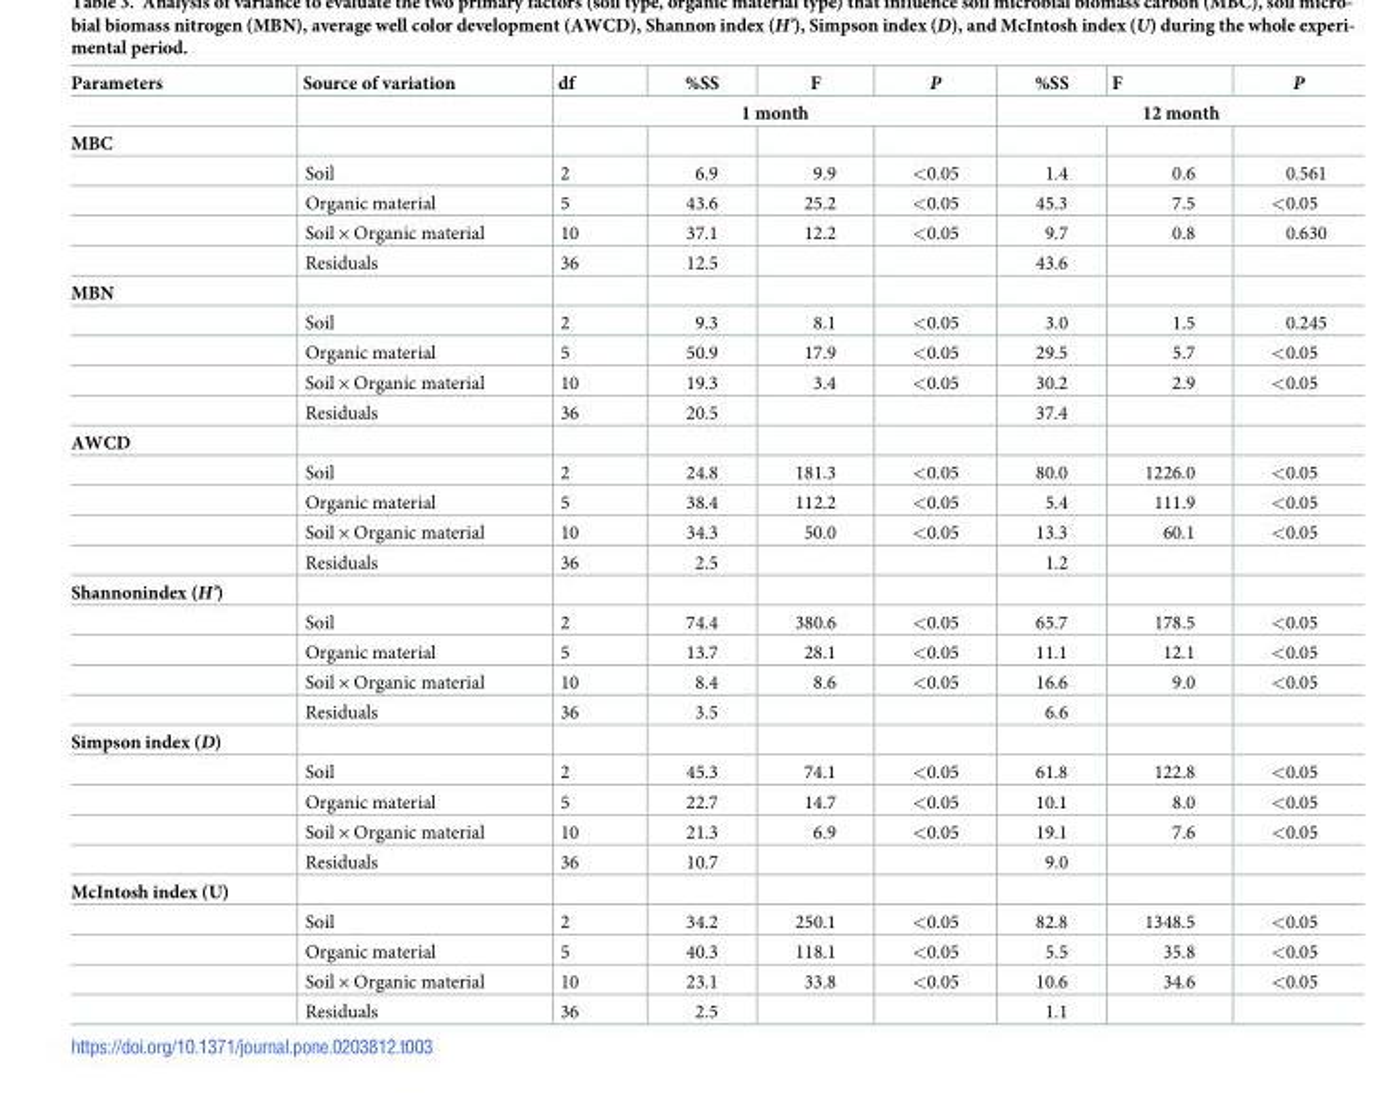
<table><thead><tr><td rowspan="2">Parameters</td><td rowspan="2">Source of variation</td><td>df</td><td>%SS</td><td>F</td><td>P</td><td>%SS</td><td>F</td><td>P</td></tr><tr><td colspan="4">1 month</td><td colspan="3">12 month</td></tr></thead><tbody><tr><td colspan="9">MBC</td></tr><tr><td></td><td>Soil</td><td>2</td><td>6.9</td><td>9.9</td><td>&lt;0.05</td><td>1.4</td><td>0.6</td><td>0.561</td></tr><tr><td></td><td>Organic material</td><td>5</td><td>43.6</td><td>25.2</td><td>&lt;0.05</td><td>45.3</td><td>7.5</td><td>&lt;0.05</td></tr><tr><td></td><td>Soil × Organic material</td><td>10</td><td>37.1</td><td>12.2</td><td>&lt;0.05</td><td>9.7</td><td>0.8</td><td>0.630</td></tr><tr><td></td><td>Residuals</td><td>36</td><td>12.5</td><td></td><td></td><td>43.6</td><td></td><td></td></tr><tr><td colspan="9">MBN</td></tr><tr><td></td><td>Soil</td><td>2</td><td>9.3</td><td>8.1</td><td>&lt;0.05</td><td>3.0</td><td>1.5</td><td>0.245</td></tr><tr><td></td><td>Organic material</td><td>5</td><td>50.9</td><td>17.9</td><td>&lt;0.05</td><td>29.5</td><td>5.7</td><td>&lt;0.05</td></tr><tr><td></td><td>Soil × Organic material</td><td>10</td><td>19.3</td><td>3.4</td><td>&lt;0.05</td><td>30.2</td><td>2.9</td><td>&lt;0.05</td></tr><tr><td></td><td>Residuals</td><td>36</td><td>20.5</td><td></td><td></td><td>37.4</td><td></td><td></td></tr><tr><td colspan="9">AWCD</td></tr><tr><td></td><td>Soil</td><td>2</td><td>24.8</td><td>181.3</td><td>&lt;0.05</td><td>80.0</td><td>1226.0</td><td>&lt;0.05</td></tr><tr><td></td><td>Organic material</td><td>5</td><td>38.4</td><td>112.2</td><td>&lt;0.05</td><td>5.4</td><td>111.9</td><td>&lt;0.05</td></tr><tr><td></td><td>Soil × Organic material</td><td>10</td><td>34.3</td><td>50.0</td><td>&lt;0.05</td><td>13.3</td><td>60.1</td><td>&lt;0.05</td></tr><tr><td></td><td>Residuals</td><td>36</td><td>2.5</td><td></td><td></td><td>1.2</td><td></td><td></td></tr><tr><td colspan="9">Shannonindex (H’)</td></tr><tr><td></td><td>Soil</td><td>2</td><td>74.4</td><td>380.6</td><td>&lt;0.05</td><td>65.7</td><td>178.5</td><td>&lt;0.05</td></tr><tr><td></td><td>Organic material</td><td>5</td><td>13.7</td><td>28.1</td><td>&lt;0.05</td><td>11.1</td><td>12.1</td><td>&lt;0.05</td></tr><tr><td></td><td>Soil × Organic material</td><td>10</td><td>8.4</td><td>8.6</td><td>&lt;0.05</td><td>16.6</td><td>9.0</td><td>&lt;0.05</td></tr><tr><td></td><td>Residuals</td><td>36</td><td>3.5</td><td></td><td></td><td>6.6</td><td></td><td></td></tr><tr><td colspan="9">Simpson index (D)</td></tr><tr><td></td><td>Soil</td><td>2</td><td>45.3</td><td>74.1</td><td>&lt;0.05</td><td>61.8</td><td>122.8</td><td>&lt;0.05</td></tr><tr><td></td><td>Organic material</td><td>5</td><td>22.7</td><td>14.7</td><td>&lt;0.05</td><td>10.1</td><td>8.0</td><td>&lt;0.05</td></tr><tr><td></td><td>Soil × Organic material</td><td>10</td><td>21.3</td><td>6.9</td><td>&lt;0.05</td><td>19.1</td><td>7.6</td><td>&lt;0.05</td></tr><tr><td></td><td>Residuals</td><td>36</td><td>10.7</td><td></td><td></td><td>9.0</td><td></td><td></td></tr><tr><td colspan="9">McIntosh index (U)</td></tr><tr><td></td><td>Soil</td><td>2</td><td>34.2</td><td>250.1</td><td>&lt;0.05</td><td>82.8</td><td>1348.5</td><td>&lt;0.05</td></tr><tr><td></td><td>Organic material</td><td>5</td><td>40.3</td><td>118.1</td><td>&lt;0.05</td><td>5.5</td><td>35.8</td><td>&lt;0.05</td></tr><tr><td></td><td>Soil × Organic material</td><td>10</td><td>23.1</td><td>33.8</td><td>&lt;0.05</td><td>10.6</td><td>34.6</td><td>&lt;0.05</td></tr><tr><td></td><td>Residuals</td><td>36</td><td>2.5</td><td></td><td></td><td>1.1</td><td></td><td></td></tr></tbody></table>